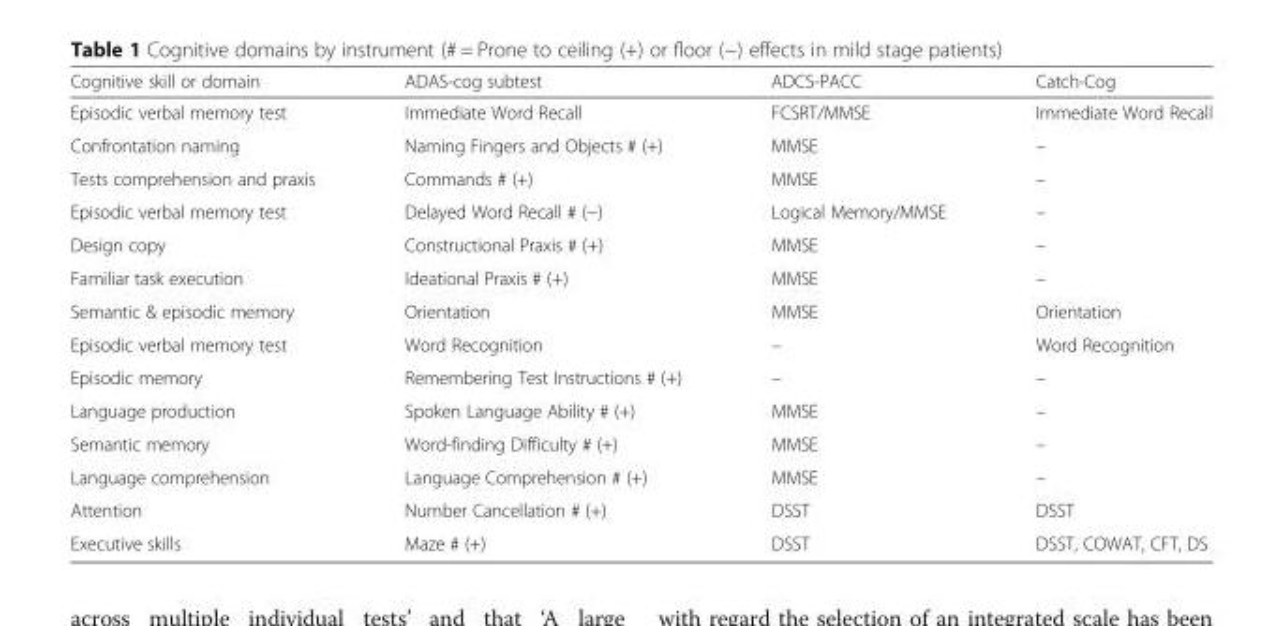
<table><thead><tr><td>Cognitive skill or domain</td><td>ADAS-cog subtest</td><td>ADCS-PACC</td><td>Catch-Cog</td></tr></thead><tbody><tr><td>Episodic verbal memory test</td><td>Immediate Word Recall</td><td>FCSRT/MMSE</td><td>Immediate Word Recall</td></tr><tr><td>Confrontation naming</td><td>Naming Fingers and Objects # (+)</td><td>MMSE</td><td>–</td></tr><tr><td>Tests comprehension and praxis</td><td>Commands # (+)</td><td>MMSE</td><td>–</td></tr><tr><td>Episodic verbal memory test</td><td>Delayed Word Recall # (−)</td><td>Logical Memory/MMSE</td><td>–</td></tr><tr><td>Design copy</td><td>Constructional Praxis # (+)</td><td>MMSE</td><td>–</td></tr><tr><td>Familiar task execution</td><td>Ideational Praxis # (+)</td><td>MMSE</td><td>–</td></tr><tr><td>Semantic &amp; episodic memory</td><td>Orientation</td><td>MMSE</td><td>Orientation</td></tr><tr><td>Episodic verbal memory test</td><td>Word Recognition</td><td>–</td><td>Word Recognition</td></tr><tr><td>Episodic memory</td><td>Remembering Test Instructions # (+)</td><td>–</td><td>–</td></tr><tr><td>Language production</td><td>Spoken Language Ability # (+)</td><td>MMSE</td><td>–</td></tr><tr><td>Semantic memory</td><td>Word-finding Difficulty # (+)</td><td>MMSE</td><td>–</td></tr><tr><td>Language comprehension</td><td>Language Comprehension # (+)</td><td>MMSE</td><td>–</td></tr><tr><td>Attention</td><td>Number Cancellation # (+)</td><td>DSST</td><td>DSST</td></tr><tr><td>Executive skills</td><td>Maze # (+)</td><td>DSST</td><td>DSST, COWAT, CFT, DS</td></tr></tbody></table>